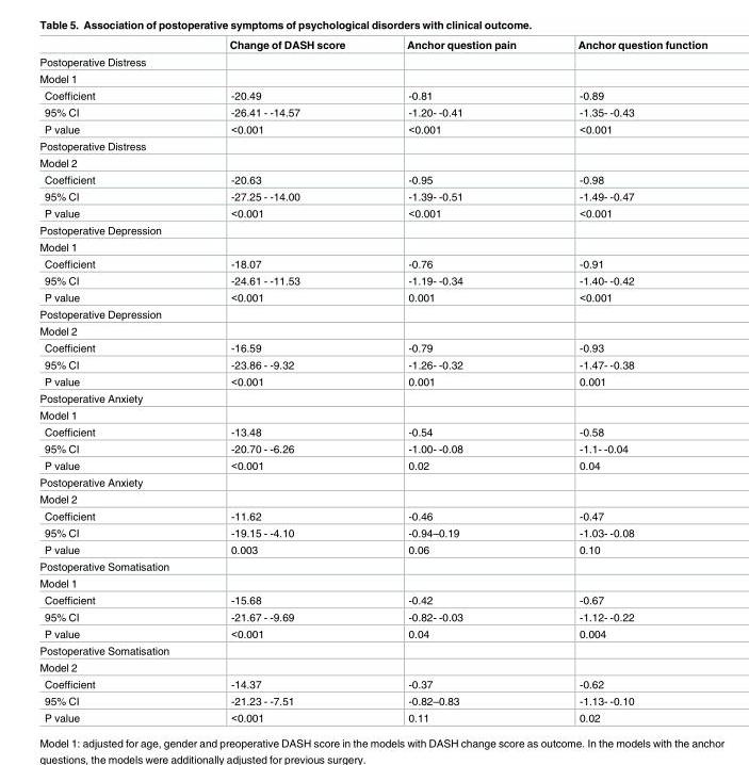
<table><thead><tr><td></td><td>Change of DASH score</td><td>Anchor question pain</td><td>Anchor question function</td></tr></thead><tbody><tr><td colspan="4">Postoperative Distress</td></tr><tr><td colspan="4">Model 1</td></tr><tr><td>Coefficient</td><td>-20.49</td><td>-0.81</td><td>-0.89</td></tr><tr><td>95% CI</td><td>-26.41 - -14.57</td><td>-1.20- -0.41</td><td>-1.35- -0.43</td></tr><tr><td>P value</td><td>&lt;0.001</td><td>&lt;0.001</td><td>&lt;0.001</td></tr><tr><td colspan="4">Postoperative Distress</td></tr><tr><td colspan="4">Model 2</td></tr><tr><td>Coefficient</td><td>-20.63</td><td>-0.95</td><td>-0.98</td></tr><tr><td>95% CI</td><td>-27.25 - -14.00</td><td>-1.39- -0.51</td><td>-1.49- -0.47</td></tr><tr><td>P value</td><td>&lt;0.001</td><td>&lt;0.001</td><td>&lt;0.001</td></tr><tr><td colspan="4">Postoperative Depression</td></tr><tr><td colspan="4">Model 1</td></tr><tr><td>Coefficient</td><td>-18.07</td><td>-0.76</td><td>-0.91</td></tr><tr><td>95% CI</td><td>-24.61 - -11.53</td><td>-1.19- -0.34</td><td>-1.40- -0.42</td></tr><tr><td>P value</td><td>&lt;0.001</td><td>0.001</td><td>&lt;0.001</td></tr><tr><td colspan="4">Postoperative Depression</td></tr><tr><td colspan="4">Model 2</td></tr><tr><td>Coefficient</td><td>-16.59</td><td>-0.79</td><td>-0.93</td></tr><tr><td>95% CI</td><td>-23.86 - -9.32</td><td>-1.26- -0.32</td><td>-1.47- -0.38</td></tr><tr><td>P value</td><td>&lt;0.001</td><td>0.001</td><td>0.001</td></tr><tr><td colspan="4">Postoperative Anxiety</td></tr><tr><td colspan="4">Model 1</td></tr><tr><td>Coefficient</td><td>-13.48</td><td>-0.54</td><td>-0.58</td></tr><tr><td>95% CI</td><td>-20.70 - -6.26</td><td>-1.00- -0.08</td><td>-1.1- -0.04</td></tr><tr><td>P value</td><td>&lt;0.001</td><td>0.02</td><td>0.04</td></tr><tr><td colspan="4">Postoperative Anxiety</td></tr><tr><td colspan="4">Model 2</td></tr><tr><td>Coefficient</td><td>-11.62</td><td>-0.46</td><td>-0.47</td></tr><tr><td>95% CI</td><td>-19.15 - -4.10</td><td>-0.94–0.19</td><td>-1.03- -0.08</td></tr><tr><td>P value</td><td>0.003</td><td>0.06</td><td>0.10</td></tr><tr><td colspan="4">Postoperative Somatisation</td></tr><tr><td colspan="4">Model 1</td></tr><tr><td>Coefficient</td><td>-15.68</td><td>-0.42</td><td>-0.67</td></tr><tr><td>95% CI</td><td>-21.67 - -9.69</td><td>-0.82- -0.03</td><td>-1.12- -0.22</td></tr><tr><td>P value</td><td>&lt;0.001</td><td>0.04</td><td>0.004</td></tr><tr><td colspan="4">Postoperative Somatisation</td></tr><tr><td colspan="4">Model 2</td></tr><tr><td>Coefficient</td><td>-14.37</td><td>-0.37</td><td>-0.62</td></tr><tr><td>95% CI</td><td>-21.23 - -7.51</td><td>-0.82–0.83</td><td>-1.13- -0.10</td></tr><tr><td>P value</td><td>&lt;0.001</td><td>0.11</td><td>0.02</td></tr></tbody></table>